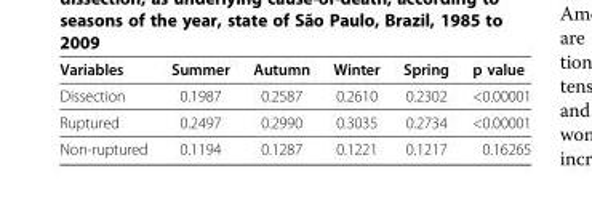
<table><thead><tr><td>Variables</td><td>Summer</td><td>Autumn</td><td>Winter</td><td>Spring</td><td>p value</td></tr></thead><tbody><tr><td>Dissection</td><td>0.1987</td><td>0.2587</td><td>0.2610</td><td>0.2302</td><td>&lt;0.00001</td></tr><tr><td>Ruptured</td><td>0.2497</td><td>0.2990</td><td>0.3035</td><td>0.2734</td><td>&lt;0.00001</td></tr><tr><td>Non-ruptured</td><td>0.1194</td><td>0.1287</td><td>0.1221</td><td>0.1217</td><td>0.16265</td></tr></tbody></table>